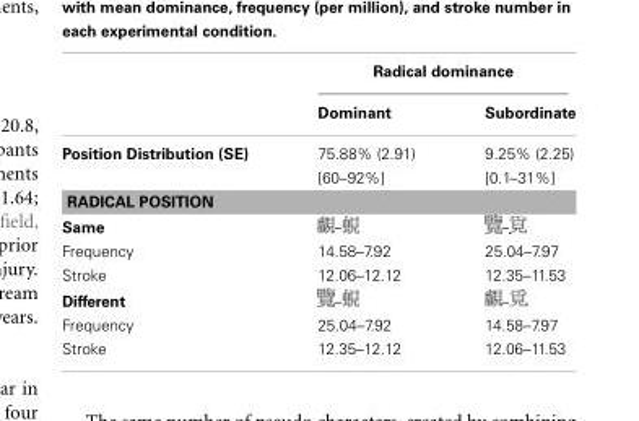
<table><thead><tr><td rowspan="2"></td><td colspan="2">Radical dominance</td></tr><tr><td>Dominant</td><td>Subordinate</td></tr></thead><tbody><tr><td rowspan="2">Position Distribution (SE)</td><td>75.88% (2.91)</td><td>9.25% (2.25)</td></tr><tr><td>[60–92%]</td><td>[0.1–31%]</td></tr><tr><td colspan="3">RADICAL POSITION</td></tr><tr><td colspan="3">Same – –</td></tr><tr><td>Frequency</td><td>14.58–7.92</td><td>25.04–7.97</td></tr><tr><td>Stroke</td><td>12.06–12.12</td><td>12.35–11.53</td></tr><tr><td colspan="3">Different – –</td></tr><tr><td>Frequency</td><td>25.04–7.92</td><td>14.58–7.97</td></tr><tr><td>Stroke</td><td>12.35–12.12</td><td>12.06–11.53</td></tr></tbody></table>